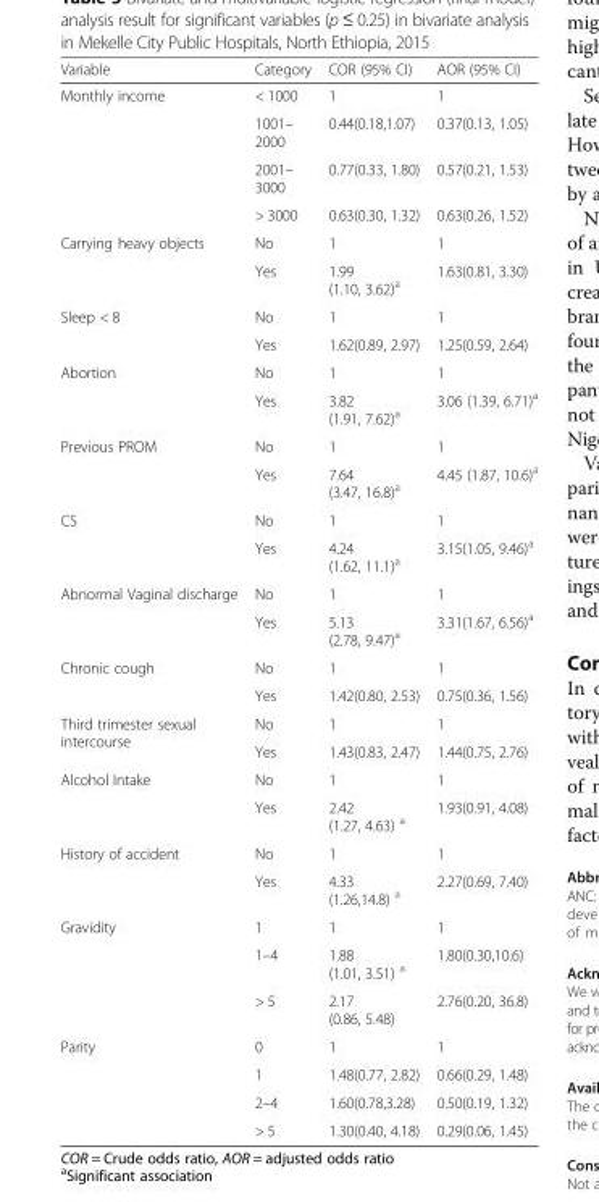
<table><thead><tr><td>Variable</td><td>Category</td><td>COR (95% CI)</td><td>AOR (95% CI)</td></tr></thead><tbody><tr><td rowspan="4">Monthly income</td><td>&lt; 1000</td><td>1</td><td>1</td></tr><tr><td>1001– 2000</td><td>0.44(0.18,1.07)</td><td>0.37(0.13, 1.05)</td></tr><tr><td>2001– 3000</td><td>0.77(0.33, 1.80)</td><td>0.57(0.21, 1.53)</td></tr><tr><td>&gt; 3000</td><td>0.63(0.30, 1.32)</td><td>0.63(0.26, 1.52)</td></tr><tr><td rowspan="2">Carrying heavy objects</td><td>No</td><td>1</td><td>1</td></tr><tr><td>Yes</td><td>1.99 (1.10, 3.62)<sup>a</sup></td><td>1.63(0.81, 3.30)</td></tr><tr><td rowspan="2">Sleep &lt; 8</td><td>No</td><td>1</td><td>1</td></tr><tr><td>Yes</td><td>1.62(0.89, 2.97)</td><td>1.25(0.59, 2.64)</td></tr><tr><td rowspan="2">Abortion</td><td>No</td><td>1</td><td>1</td></tr><tr><td>Yes</td><td>3.82 (1.91, 7.62)<sup>a</sup></td><td>3.06 (1.39, 6.71)<sup>a</sup></td></tr><tr><td rowspan="2">Previous PROM</td><td>No</td><td>1</td><td>1</td></tr><tr><td>Yes</td><td>7.64 (3.47, 16.8)<sup>a</sup></td><td>4.45 (1.87, 10.6)<sup>a</sup></td></tr><tr><td rowspan="2">CS</td><td>No</td><td>1</td><td>1</td></tr><tr><td>Yes</td><td>4.24 (1.62, 11.1)<sup>a</sup></td><td>3.15(1.05, 9.46)<sup>a</sup></td></tr><tr><td rowspan="2">Abnormal Vaginal discharge</td><td>No</td><td>1</td><td>1</td></tr><tr><td>Yes</td><td>5.13 (2.78, 9.47)<sup>a</sup></td><td>3.31(1.67, 6.56)<sup>a</sup></td></tr><tr><td rowspan="2">Chronic cough</td><td>No</td><td>1</td><td>1</td></tr><tr><td>Yes</td><td>1.42(0.80, 2.53)</td><td>0.75(0.36, 1.56)</td></tr><tr><td rowspan="2">Third trimester sexual intercourse</td><td>No</td><td>1</td><td>1</td></tr><tr><td>Yes</td><td>1.43(0.83, 2.47)</td><td>1.44(0.75, 2.76)</td></tr><tr><td rowspan="2">Alcohol Intake</td><td>No</td><td>1</td><td>1</td></tr><tr><td>Yes</td><td>2.42 (1.27, 4.63) <sup>a</sup></td><td>1.93(0.91, 4.08)</td></tr><tr><td rowspan="2">History of accident</td><td>No</td><td>1</td><td>1</td></tr><tr><td>Yes</td><td>4.33 (1.26,14.8) <sup>a</sup></td><td>2.27(0.69, 7.40)</td></tr><tr><td rowspan="3">Gravidity</td><td>1</td><td>1</td><td>1</td></tr><tr><td>1–4</td><td>1.88 (1.01, 3.51) <sup>a</sup></td><td>1.80(0.30,10.6)</td></tr><tr><td>&gt; 5</td><td>2.17 (0.86, 5.48)</td><td>2.76(0.20, 36.8)</td></tr><tr><td rowspan="4">Parity</td><td>0</td><td>1</td><td>1</td></tr><tr><td>1</td><td>1.48(0.77, 2.82)</td><td>0.66(0.29, 1.48)</td></tr><tr><td>2–4</td><td>1.60(0.78,3.28)</td><td>0.50(0.19, 1.32)</td></tr><tr><td>&gt; 5</td><td>1.30(0.40, 4.18)</td><td>0.29(0.06, 1.45)</td></tr></tbody></table>